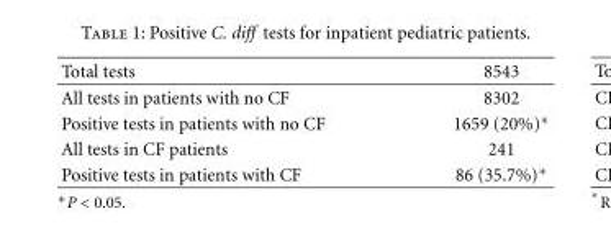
<table><thead><tr><td>Total tests</td><td>8543</td></tr></thead><tbody><tr><td>All tests in patients with no CF</td><td>8302</td></tr><tr><td>Positive tests in patients with no CF</td><td>1659 (20%)∗</td></tr><tr><td>All tests in CF patients</td><td>241</td></tr><tr><td>Positive tests in patients with CF</td><td>86 (35.7%)∗</td></tr></tbody></table>